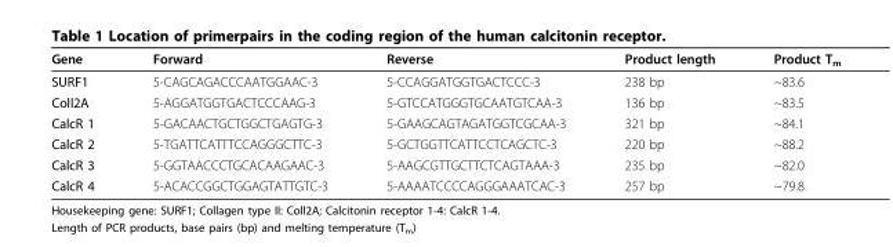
<table><thead><tr><td>Gene</td><td>Forward</td><td>Reverse</td><td>Product length</td><td>Product T<sub>m</sub></td></tr></thead><tbody><tr><td>SURF1</td><td>5-CAGCAGACCCAATGGAAC-3</td><td>5-CCAGGATGGTGACTCCC-3</td><td>238 bp</td><td>~83.6</td></tr><tr><td>Coll2A</td><td>5-AGGATGGTGACTCCCAAG-3</td><td>5-GTCCATGGGTGCAATGTCAA-3</td><td>136 bp</td><td>~83.5</td></tr><tr><td>CalcR 1</td><td>5-GACAACTGCTGGCTGAGTG-3</td><td>5-GAAGCAGTAGATGGTCGCAA-3</td><td>321 bp</td><td>~84.1</td></tr><tr><td>CalcR 2</td><td>5-TGATTCATTTCCAGGGCTTC-3</td><td>5-GCTGGTTCATTCCTCAGCTC-3</td><td>220 bp</td><td>~88.2</td></tr><tr><td>CalcR 3</td><td>5-GGTAACCCTGCACAAGAAC-3</td><td>5-AAGCGTTGCTTCTCAGTAAA-3</td><td>235 bp</td><td>~82.0</td></tr><tr><td>CalcR 4</td><td>5-ACACCGGCTGGAGTATTGTC-3</td><td>5-AAAATCCCCAGGGAAATCAC-3</td><td>257 bp</td><td>~79.8</td></tr></tbody></table>